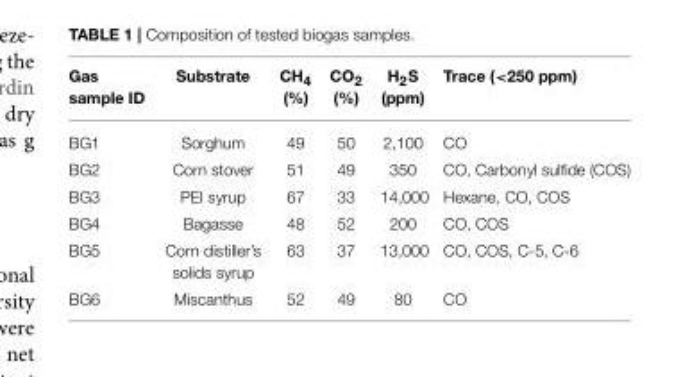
<table><thead><tr><td>Gas sample ID</td><td>Substrate</td><td>CH<sub>4</sub> (%)</td><td>CO<sub>2</sub> (%)</td><td>H<sub>2</sub>S (ppm)</td><td>Trace (&lt;250 ppm)</td></tr></thead><tbody><tr><td>BG1</td><td>Sorghum</td><td>49</td><td>50</td><td>2,100</td><td>CO</td></tr><tr><td>BG2</td><td>Corn stover</td><td>51</td><td>49</td><td>350</td><td>CO, Carbonyl sulfide (COS)</td></tr><tr><td>BG3</td><td>PEI syrup</td><td>67</td><td>33</td><td>14,000</td><td>Hexane, CO, COS</td></tr><tr><td>BG4</td><td>Bagasse</td><td>48</td><td>52</td><td>200</td><td>CO, COS</td></tr><tr><td>BG5</td><td>Corn distiller’s solids syrup</td><td>63</td><td>37</td><td>13,000</td><td>CO, COS, C-5, C-6</td></tr><tr><td>BG6</td><td>Miscanthus</td><td>52</td><td>49</td><td>80</td><td>CO</td></tr></tbody></table>